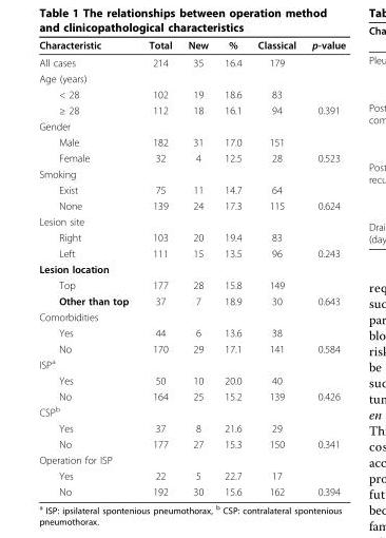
<table><thead><tr><td>Characteristic</td><td>Total</td><td>New</td><td>%</td><td>Classical</td><td>p-value</td></tr></thead><tbody><tr><td>All cases</td><td>214</td><td>35</td><td>16.4</td><td>179</td><td></td></tr><tr><td colspan="6">Age (years)</td></tr><tr><td>&lt; 28</td><td>102</td><td>19</td><td>18.6</td><td>83</td><td></td></tr><tr><td>≥ 28</td><td>112</td><td>18</td><td>16.1</td><td>94</td><td>0.391</td></tr><tr><td colspan="6">Gender</td></tr><tr><td>Male</td><td>182</td><td>31</td><td>17.0</td><td>151</td><td></td></tr><tr><td>Female</td><td>32</td><td>4</td><td>12.5</td><td>28</td><td>0.523</td></tr><tr><td colspan="6">Smoking</td></tr><tr><td>Exist</td><td>75</td><td>11</td><td>14.7</td><td>64</td><td></td></tr><tr><td>None</td><td>139</td><td>24</td><td>17.3</td><td>115</td><td>0.624</td></tr><tr><td colspan="6">Lesion site</td></tr><tr><td>Right</td><td>103</td><td>20</td><td>19.4</td><td>83</td><td></td></tr><tr><td>Left</td><td>111</td><td>15</td><td>13.5</td><td>96</td><td>0.243</td></tr><tr><td colspan="6">Lesion location</td></tr><tr><td>Top</td><td>177</td><td>28</td><td>15.8</td><td>149</td><td></td></tr><tr><td>Other than top</td><td>37</td><td>7</td><td>18.9</td><td>30</td><td>0.643</td></tr><tr><td colspan="6">Comorbidities</td></tr><tr><td>Yes</td><td>44</td><td>6</td><td>13.6</td><td>38</td><td></td></tr><tr><td>No</td><td>170</td><td>29</td><td>17.1</td><td>141</td><td>0.584</td></tr><tr><td colspan="6">ISP<sup>a</sup></td></tr><tr><td>Yes</td><td>50</td><td>10</td><td>20.0</td><td>40</td><td></td></tr><tr><td>No</td><td>164</td><td>25</td><td>15.2</td><td>139</td><td>0.426</td></tr><tr><td colspan="6">CSP<sup>b</sup></td></tr><tr><td>Yes</td><td>37</td><td>8</td><td>21.6</td><td>29</td><td></td></tr><tr><td>No</td><td>177</td><td>27</td><td>15.3</td><td>150</td><td>0.341</td></tr><tr><td colspan="6">Operation for ISP</td></tr><tr><td>Yes</td><td>22</td><td>5</td><td>22.7</td><td>17</td><td></td></tr><tr><td>No</td><td>192</td><td>30</td><td>15.6</td><td>162</td><td>0.394</td></tr></tbody></table>